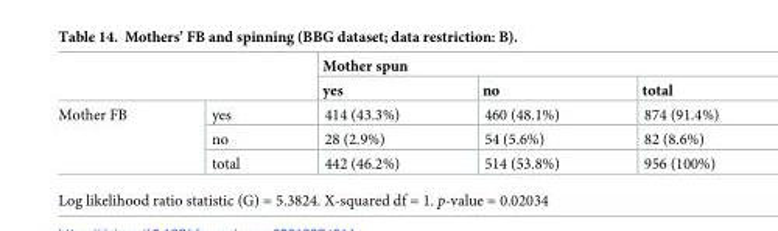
<table><thead><tr><td rowspan="2"></td><td rowspan="2"></td><td colspan="3">Mother spun</td></tr><tr><td>yes</td><td>no</td><td>total</td></tr></thead><tbody><tr><td rowspan="3">Mother FB</td><td>yes</td><td>414 (43.3%)</td><td>460 (48.1%)</td><td>874 (91.4%)</td></tr><tr><td>no</td><td>28 (2.9%)</td><td>54 (5.6%)</td><td>82 (8.6%)</td></tr><tr><td>total</td><td>442 (46.2%)</td><td>514 (53.8%)</td><td>956 (100%)</td></tr></tbody></table>